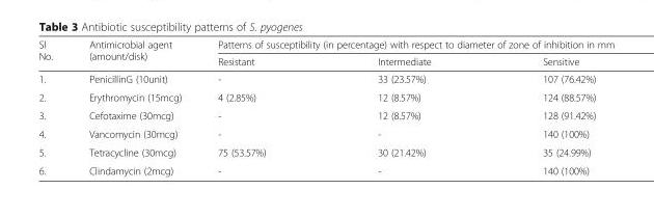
<table><thead><tr><td rowspan="2">Sl No.</td><td rowspan="2">Antimicrobial agent (amount/disk)</td><td colspan="3">Patterns of susceptibility (in percentage) with respect to diameter of zone of inhibition in mm</td></tr><tr><td>Resistant</td><td>Intermediate</td><td>Sensitive</td></tr></thead><tbody><tr><td>1.</td><td>PenicillinG (10unit)</td><td>-</td><td>33 (23.57%)</td><td>107 (76.42%)</td></tr><tr><td>2.</td><td>Erythromycin (15mcg)</td><td>4 (2.85%)</td><td>12 (8.57%)</td><td>124 (88.57%)</td></tr><tr><td>3.</td><td>Cefotaxime (30mcg)</td><td>-</td><td>12 (8.57%)</td><td>128 (91.42%)</td></tr><tr><td>4.</td><td>Vancomycin (30mcg)</td><td>-</td><td>-</td><td>140 (100%)</td></tr><tr><td>5.</td><td>Tetracycline (30mcg)</td><td>75 (53.57%)</td><td>30 (21.42%)</td><td>35 (24.99%)</td></tr><tr><td>6.</td><td>Clindamycin (2mcg)</td><td>-</td><td>-</td><td>140 (100%)</td></tr></tbody></table>